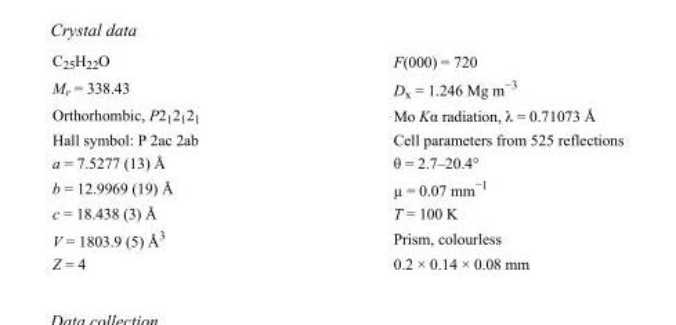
<table><tbody><tr><td>C<sub>25</sub>H<sub>22</sub>O</td><td>F(000) = 720</td></tr><tr><td>M<sub>r</sub> = 338.43</td><td>D<sub>x</sub> = 1.246 Mg m<sup>−3</sup></td></tr><tr><td>Orthorhombic, P2<sub>1</sub>2<sub>1</sub>2<sub>1</sub></td><td>Mo Kα radiation, λ = 0.71073 Å</td></tr><tr><td>Hall symbol: P 2ac 2ab</td><td>Cell parameters from 525 reflections</td></tr><tr><td>a = 7.5277 (13) Å</td><td>θ = 2.7–20.4°</td></tr><tr><td>b = 12.9969 (19) Å</td><td>µ = 0.07 mm<sup>−1</sup></td></tr><tr><td>c = 18.438 (3) Å</td><td>T = 100 K</td></tr><tr><td>V = 1803.9 (5) Å<sup>3</sup></td><td>Prism, colourless</td></tr><tr><td>Z = 4</td><td>0.2 × 0.14 × 0.08 mm</td></tr></tbody></table>